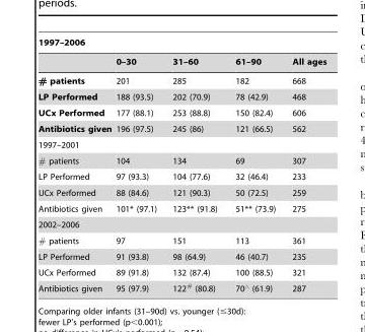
<table><thead><tr><td colspan="5">1997–2006</td></tr><tr><td></td><td>0–30</td><td>31–60</td><td>61–90</td><td>All ages</td></tr></thead><tbody><tr><td># patients</td><td>201</td><td>285</td><td>182</td><td>668</td></tr><tr><td>LP Performed</td><td>188 (93.5)</td><td>202 (70.9)</td><td>78 (42.9)</td><td>468</td></tr><tr><td>UCx Performed</td><td>177 (88.1)</td><td>253 (88.8)</td><td>150 (82.4)</td><td>606</td></tr><tr><td>Antibiotics given</td><td>196 (97.5)</td><td>245 (86)</td><td>121 (66.5)</td><td>562</td></tr><tr><td colspan="5">1997–2001</td></tr><tr><td># patients</td><td>104</td><td>134</td><td>69</td><td>307</td></tr><tr><td>LP Performed</td><td>97 (93.3)</td><td>104 (77.6)</td><td>32 (46.4)</td><td>233</td></tr><tr><td>UCx Performed</td><td>88 (84.6)</td><td>121 (90.3)</td><td>50 (72.5)</td><td>259</td></tr><tr><td>Antibiotics given</td><td>101* (97.1)</td><td>123** (91.8)</td><td>51** (73.9)</td><td>275</td></tr><tr><td colspan="5">2002–2006</td></tr><tr><td># patients</td><td>97</td><td>151</td><td>113</td><td>361</td></tr><tr><td>LP Performed</td><td>91 (93.8)</td><td>98 (64.9)</td><td>46 (40.7)</td><td>235</td></tr><tr><td>UCx Performed</td><td>89 (91.8)</td><td>132 (87.4)</td><td>100 (88.5)</td><td>321</td></tr><tr><td>Antibiotics given</td><td>95 (97.9)</td><td>122# (80.8)</td><td>70‘ (61.9)</td><td>287</td></tr></tbody></table>